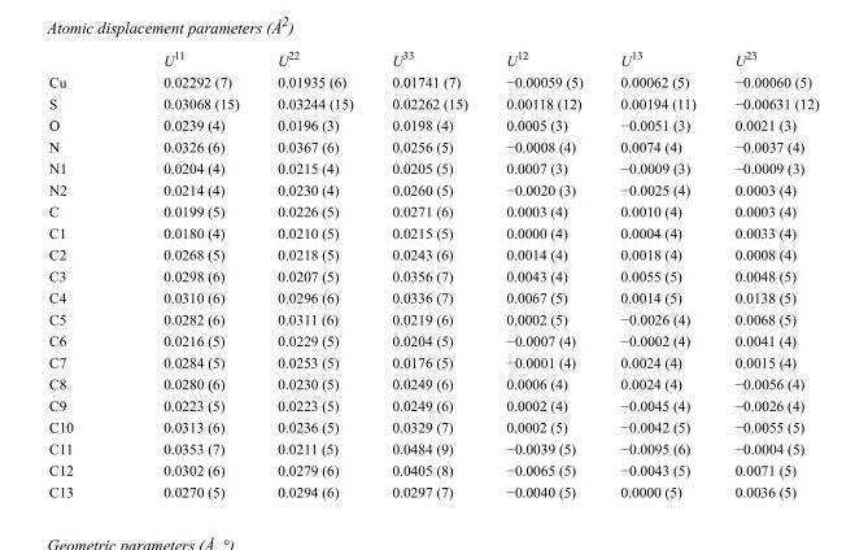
<table><thead><tr><td></td><td>U<sup>11</sup></td><td>U<sup>22</sup></td><td>U<sup>33</sup></td><td>U<sup>12</sup></td><td>U<sup>13</sup></td><td>U<sup>23</sup></td></tr></thead><tbody><tr><td>Cu</td><td>0.02292 (7)</td><td>0.01935 (6)</td><td>0.01741 (7)</td><td>−0.00059 (5)</td><td>0.00062 (5)</td><td>−0.00060 (5)</td></tr><tr><td>S</td><td>0.03068 (15)</td><td>0.03244 (15)</td><td>0.02262 (15)</td><td>0.00118 (12)</td><td>0.00194 (11)</td><td>−0.00631 (12)</td></tr><tr><td>O</td><td>0.0239 (4)</td><td>0.0196 (3)</td><td>0.0198 (4)</td><td>0.0005 (3)</td><td>−0.0051 (3)</td><td>0.0021 (3)</td></tr><tr><td>N</td><td>0.0326 (6)</td><td>0.0367 (6)</td><td>0.0256 (5)</td><td>−0.0008 (4)</td><td>0.0074 (4)</td><td>−0.0037 (4)</td></tr><tr><td>N1</td><td>0.0204 (4)</td><td>0.0215 (4)</td><td>0.0205 (5)</td><td>0.0007 (3)</td><td>−0.0009 (3)</td><td>−0.0009 (3)</td></tr><tr><td>N2</td><td>0.0214 (4)</td><td>0.0230 (4)</td><td>0.0260 (5)</td><td>−0.0020 (3)</td><td>−0.0025 (4)</td><td>0.0003 (4)</td></tr><tr><td>C</td><td>0.0199 (5)</td><td>0.0226 (5)</td><td>0.0271 (6)</td><td>0.0003 (4)</td><td>0.0010 (4)</td><td>0.0003 (4)</td></tr><tr><td>C1</td><td>0.0180 (4)</td><td>0.0210 (5)</td><td>0.0215 (5)</td><td>0.0000 (4)</td><td>0.0004 (4)</td><td>0.0033 (4)</td></tr><tr><td>C2</td><td>0.0268 (5)</td><td>0.0218 (5)</td><td>0.0243 (6)</td><td>0.0014 (4)</td><td>0.0018 (4)</td><td>0.0008 (4)</td></tr><tr><td>C3</td><td>0.0298 (6)</td><td>0.0207 (5)</td><td>0.0356 (7)</td><td>0.0043 (4)</td><td>0.0055 (5)</td><td>0.0048 (5)</td></tr><tr><td>C4</td><td>0.0310 (6)</td><td>0.0296 (6)</td><td>0.0336 (7)</td><td>0.0067 (5)</td><td>0.0014 (5)</td><td>0.0138 (5)</td></tr><tr><td>C5</td><td>0.0282 (6)</td><td>0.0311 (6)</td><td>0.0219 (6)</td><td>0.0002 (5)</td><td>−0.0026 (4)</td><td>0.0068 (5)</td></tr><tr><td>C6</td><td>0.0216 (5)</td><td>0.0229 (5)</td><td>0.0204 (5)</td><td>−0.0007 (4)</td><td>−0.0002 (4)</td><td>0.0041 (4)</td></tr><tr><td>C7</td><td>0.0284 (5)</td><td>0.0253 (5)</td><td>0.0176 (5)</td><td>−0.0001 (4)</td><td>0.0024 (4)</td><td>0.0015 (4)</td></tr><tr><td>C8</td><td>0.0280 (6)</td><td>0.0230 (5)</td><td>0.0249 (6)</td><td>0.0006 (4)</td><td>0.0024 (4)</td><td>−0.0056 (4)</td></tr><tr><td>C9</td><td>0.0223 (5)</td><td>0.0223 (5)</td><td>0.0249 (6)</td><td>0.0002 (4)</td><td>−0.0045 (4)</td><td>−0.0026 (4)</td></tr><tr><td>C10</td><td>0.0313 (6)</td><td>0.0236 (5)</td><td>0.0329 (7)</td><td>0.0002 (5)</td><td>−0.0042 (5)</td><td>−0.0055 (5)</td></tr><tr><td>C11</td><td>0.0353 (7)</td><td>0.0211 (5)</td><td>0.0484 (9)</td><td>−0.0039 (5)</td><td>−0.0095 (6)</td><td>−0.0004 (5)</td></tr><tr><td>C12</td><td>0.0302 (6)</td><td>0.0279 (6)</td><td>0.0405 (8)</td><td>−0.0065 (5)</td><td>−0.0043 (5)</td><td>0.0071 (5)</td></tr><tr><td>C13</td><td>0.0270 (5)</td><td>0.0294 (6)</td><td>0.0297 (7)</td><td>−0.0040 (5)</td><td>0.0000 (5)</td><td>0.0036 (5)</td></tr></tbody></table>